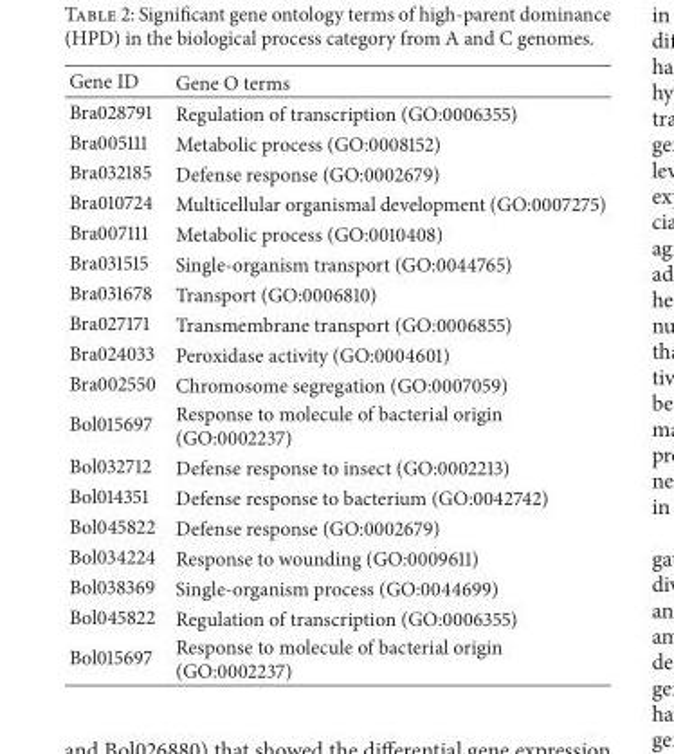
<table><thead><tr><td>Gene ID</td><td>Gene O terms</td></tr></thead><tbody><tr><td>Bra028791</td><td>Regulation of transcription (GO:0006355)</td></tr><tr><td>Bra005111</td><td>Metabolic process (GO:0008152)</td></tr><tr><td>Bra032185</td><td>Defense response (GO:0002679)</td></tr><tr><td>Bra010724</td><td>Multicellular organismal development (GO:0007275)</td></tr><tr><td>Bra007111</td><td>Metabolic process (GO:0010408)</td></tr><tr><td>Bra031515</td><td>Single-organism transport (GO:0044765)</td></tr><tr><td>Bra031678</td><td>Transport (GO:0006810)</td></tr><tr><td>Bra027171</td><td>Transmembrane transport (GO:0006855)</td></tr><tr><td>Bra024033</td><td>Peroxidase activity (GO:0004601)</td></tr><tr><td>Bra002550</td><td>Chromosome segregation (GO:0007059)</td></tr><tr><td>Bol015697</td><td>Response to molecule of bacterial origin (GO:0002237)</td></tr><tr><td>Bol032712</td><td>Defense response to insect (GO:0002213)</td></tr><tr><td>Bol014351</td><td>Defense response to bacterium (GO:0042742)</td></tr><tr><td>Bol045822</td><td>Defense response (GO:0002679)</td></tr><tr><td>Bol034224</td><td>Response to wounding (GO:0009611)</td></tr><tr><td>Bol038369</td><td>Single-organism process (GO:0044699)</td></tr><tr><td>Bol045822</td><td>Regulation of transcription (GO:0006355)</td></tr><tr><td>Bol015697</td><td>Response to molecule of bacterial origin (GO:0002237)</td></tr></tbody></table>